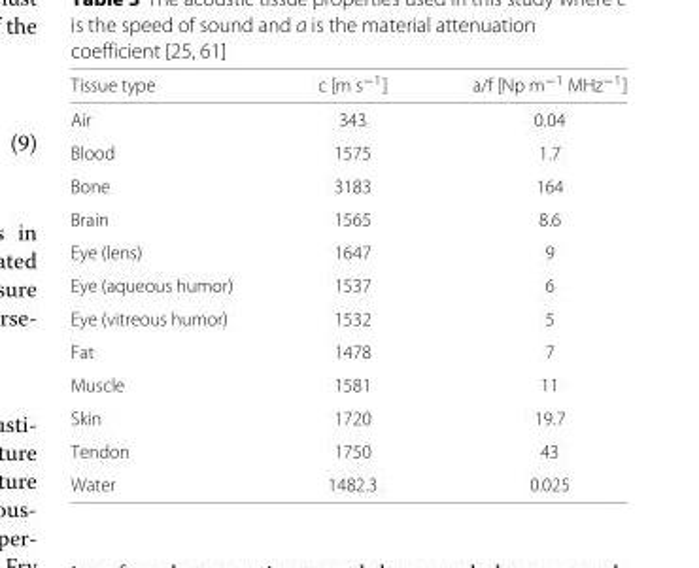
<table><thead><tr><td>Tissue type</td><td>c [m s<sup>−1</sup>]</td><td>a/f [Np m<sup>−1</sup> MHz<sup>−1</sup>]</td></tr></thead><tbody><tr><td>Air</td><td>343</td><td>0.04</td></tr><tr><td>Blood</td><td>1575</td><td>1.7</td></tr><tr><td>Bone</td><td>3183</td><td>164</td></tr><tr><td>Brain</td><td>1565</td><td>8.6</td></tr><tr><td>Eye (lens)</td><td>1647</td><td>9</td></tr><tr><td>Eye (aqueous humor)</td><td>1537</td><td>6</td></tr><tr><td>Eye (vitreous humor)</td><td>1532</td><td>5</td></tr><tr><td>Fat</td><td>1478</td><td>7</td></tr><tr><td>Muscle</td><td>1581</td><td>11</td></tr><tr><td>Skin</td><td>1720</td><td>19.7</td></tr><tr><td>Tendon</td><td>1750</td><td>43</td></tr><tr><td>Water</td><td>1482.3</td><td>0.025</td></tr></tbody></table>